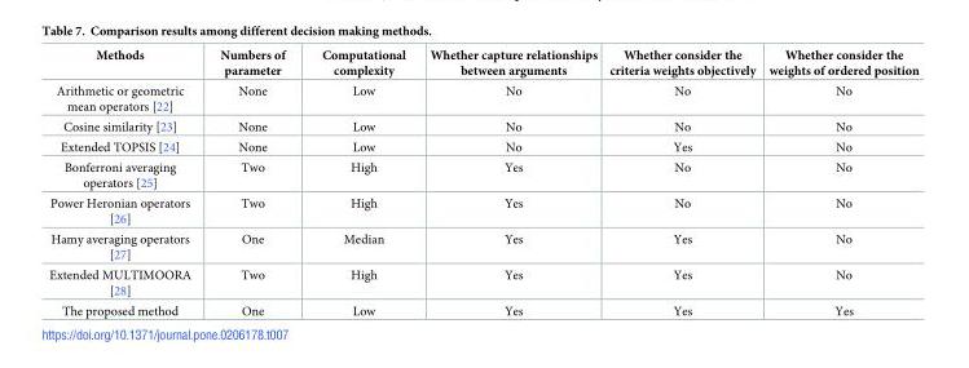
<table><thead><tr><td>Methods</td><td>Numbers of parameter</td><td>Computational complexity</td><td>Whether capture relationships between arguments</td><td>Whether consider the criteria weights objectively</td><td>Whether consider the weights of ordered position</td></tr></thead><tbody><tr><td>Arithmetic or geometric mean operators [22]</td><td>None</td><td>Low</td><td>No</td><td>No</td><td>No</td></tr><tr><td>Cosine similarity [23]</td><td>None</td><td>Low</td><td>No</td><td>No</td><td>No</td></tr><tr><td>Extended TOPSIS [24]</td><td>None</td><td>Low</td><td>No</td><td>Yes</td><td>No</td></tr><tr><td>Bonferroni averaging operators [25]</td><td>Two</td><td>High</td><td>Yes</td><td>No</td><td>No</td></tr><tr><td>Power Heronian operators [26]</td><td>Two</td><td>High</td><td>Yes</td><td>No</td><td>No</td></tr><tr><td>Hamy averaging operators [27]</td><td>One</td><td>Median</td><td>Yes</td><td>Yes</td><td>No</td></tr><tr><td>Extended MULTIMOORA [28]</td><td>Two</td><td>High</td><td>Yes</td><td>Yes</td><td>No</td></tr><tr><td>The proposed method</td><td>One</td><td>Low</td><td>Yes</td><td>Yes</td><td>Yes</td></tr></tbody></table>